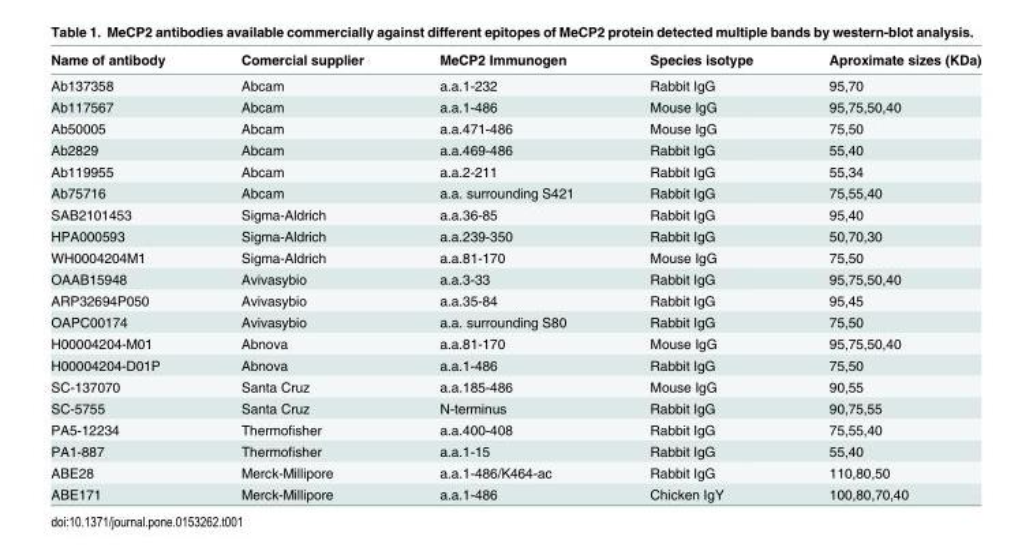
<table><thead><tr><td>Name of antibody</td><td>Comercial supplier</td><td>MeCP2 Immunogen</td><td>Species isotype</td><td>Aproximate sizes (KDa)</td></tr></thead><tbody><tr><td>Ab137358</td><td>Abcam</td><td>a.a.1-232</td><td>Rabbit IgG</td><td>95,70</td></tr><tr><td>Ab117567</td><td>Abcam</td><td>a.a.1-486</td><td>Mouse IgG</td><td>95,75,50,40</td></tr><tr><td>Ab50005</td><td>Abcam</td><td>a.a.471-486</td><td>Mouse IgG</td><td>75,50</td></tr><tr><td>Ab2829</td><td>Abcam</td><td>a.a.469-486</td><td>Rabbit IgG</td><td>55,40</td></tr><tr><td>Ab119955</td><td>Abcam</td><td>a.a.2-211</td><td>Rabbit IgG</td><td>55,34</td></tr><tr><td>Ab75716</td><td>Abcam</td><td>a.a. surrounding S421</td><td>Rabbit IgG</td><td>75,55,40</td></tr><tr><td>SAB2101453</td><td>Sigma-Aldrich</td><td>a.a.36-85</td><td>Rabbit IgG</td><td>95,40</td></tr><tr><td>HPA000593</td><td>Sigma-Aldrich</td><td>a.a.239-350</td><td>Rabbit IgG</td><td>50,70,30</td></tr><tr><td>WH0004204M1</td><td>Sigma-Aldrich</td><td>a.a.81-170</td><td>Mouse IgG</td><td>75,50</td></tr><tr><td>OAAB15948</td><td>Avivasybio</td><td>a.a.3-33</td><td>Rabbit IgG</td><td>95,75,50,40</td></tr><tr><td>ARP32694P050</td><td>Avivasybio</td><td>a.a.35-84</td><td>Rabbit IgG</td><td>95,45</td></tr><tr><td>OAPC00174</td><td>Avivasybio</td><td>a.a. surrounding S80</td><td>Rabbit IgG</td><td>75,50</td></tr><tr><td>H00004204-M01</td><td>Abnova</td><td>a.a.81-170</td><td>Mouse IgG</td><td>95,75,50,40</td></tr><tr><td>H00004204-D01P</td><td>Abnova</td><td>a.a.1-486</td><td>Rabbit IgG</td><td>75,50</td></tr><tr><td>SC-137070</td><td>Santa Cruz</td><td>a.a.185-486</td><td>Mouse IgG</td><td>90,55</td></tr><tr><td>SC-5755</td><td>Santa Cruz</td><td>N-terminus</td><td>Rabbit IgG</td><td>90,75,55</td></tr><tr><td>PA5-12234</td><td>Thermofisher</td><td>a.a.400-408</td><td>Rabbit IgG</td><td>75,55,40</td></tr><tr><td>PA1-887</td><td>Thermofisher</td><td>a.a.1-15</td><td>Rabbit IgG</td><td>55,40</td></tr><tr><td>ABE28</td><td>Merck-Millipore</td><td>a.a.1-486/K464-ac</td><td>Rabbit IgG</td><td>110,80,50</td></tr><tr><td>ABE171</td><td>Merck-Millipore</td><td>a.a.1-486</td><td>Chicken IgY</td><td>100,80,70,40</td></tr></tbody></table>